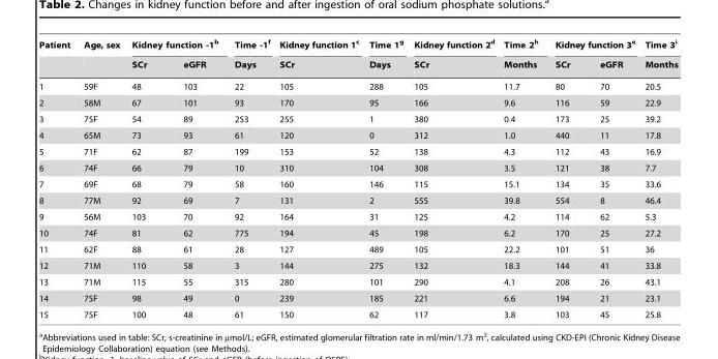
<table><thead><tr><td rowspan="2">Patient</td><td rowspan="2">Age, sex</td><td colspan="2">Kidney function -1<sup>b</sup></td><td rowspan="2">Time -1<sup>f</sup> Days</td><td rowspan="2">Kidney function 1<sup>c</sup> SCr</td><td rowspan="2">Time 1<sup>g</sup> Days</td><td rowspan="2">Kidney function 2<sup>d</sup> SCr</td><td rowspan="2">Time 2<sup>h</sup> Months</td><td colspan="2">Kidney function 3<sup>e</sup></td><td rowspan="2">Time 3<sup>i</sup> Months</td></tr><tr><td>SCr</td><td>eGFR</td><td>SCr</td><td>eGFR</td></tr></thead><tbody><tr><td>1</td><td>59F</td><td>48</td><td>103</td><td>22</td><td>105</td><td>288</td><td>105</td><td>11.7</td><td>80</td><td>70</td><td>20.5</td></tr><tr><td>2</td><td>58M</td><td>67</td><td>101</td><td>93</td><td>170</td><td>95</td><td>166</td><td>9.6</td><td>116</td><td>59</td><td>22.9</td></tr><tr><td>3</td><td>75F</td><td>54</td><td>89</td><td>253</td><td>255</td><td>1</td><td>380</td><td>0.4</td><td>173</td><td>25</td><td>39.2</td></tr><tr><td>4</td><td>65M</td><td>73</td><td>93</td><td>61</td><td>120</td><td>0</td><td>312</td><td>1.0</td><td>440</td><td>11</td><td>17.8</td></tr><tr><td>5</td><td>71F</td><td>62</td><td>87</td><td>199</td><td>153</td><td>52</td><td>138</td><td>4.3</td><td>112</td><td>43</td><td>16.9</td></tr><tr><td>6</td><td>74F</td><td>66</td><td>79</td><td>10</td><td>310</td><td>104</td><td>308</td><td>3.5</td><td>121</td><td>38</td><td>7.7</td></tr><tr><td>7</td><td>69F</td><td>68</td><td>79</td><td>58</td><td>160</td><td>146</td><td>115</td><td>15.1</td><td>134</td><td>35</td><td>33.6</td></tr><tr><td>8</td><td>77M</td><td>92</td><td>69</td><td>7</td><td>131</td><td>2</td><td>555</td><td>39.8</td><td>554</td><td>8</td><td>46.4</td></tr><tr><td>9</td><td>56M</td><td>103</td><td>70</td><td>92</td><td>164</td><td>31</td><td>125</td><td>4.2</td><td>114</td><td>62</td><td>5.3</td></tr><tr><td>10</td><td>74F</td><td>81</td><td>62</td><td>775</td><td>194</td><td>45</td><td>198</td><td>6.2</td><td>170</td><td>25</td><td>27.2</td></tr><tr><td>11</td><td>62F</td><td>88</td><td>61</td><td>28</td><td>127</td><td>489</td><td>105</td><td>22.2</td><td>101</td><td>51</td><td>36</td></tr><tr><td>12</td><td>71M</td><td>110</td><td>58</td><td>3</td><td>144</td><td>275</td><td>132</td><td>18.3</td><td>144</td><td>41</td><td>33.8</td></tr><tr><td>13</td><td>71M</td><td>115</td><td>55</td><td>315</td><td>280</td><td>101</td><td>290</td><td>4.1</td><td>208</td><td>26</td><td>43.1</td></tr><tr><td>14</td><td>75F</td><td>98</td><td>49</td><td>0</td><td>239</td><td>185</td><td>221</td><td>6.6</td><td>194</td><td>21</td><td>23.1</td></tr><tr><td>15</td><td>75F</td><td>100</td><td>48</td><td>61</td><td>150</td><td>62</td><td>117</td><td>3.8</td><td>103</td><td>45</td><td>25.8</td></tr></tbody></table>